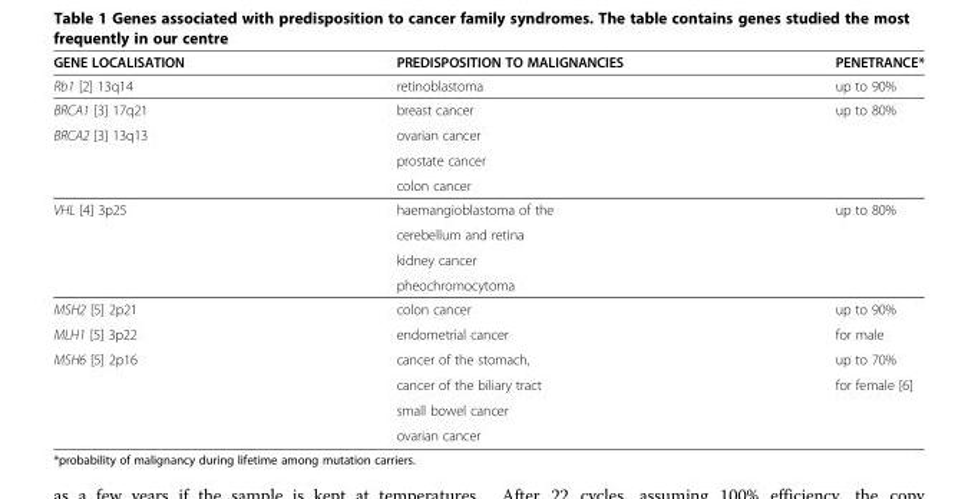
<table><thead><tr><td>GENE LOCALISATION</td><td>PREDISPOSITION TO MALIGNANCIES</td><td>PENETRANCE*</td></tr></thead><tbody><tr><td>Rb1 [2] 13q14</td><td>retinoblastoma</td><td>up to 90%</td></tr><tr><td>BRCA1 [3] 17q21</td><td>breast cancer</td><td>up to 80%</td></tr><tr><td rowspan="3">BRCA2 [3] 13q13</td><td>ovarian cancer</td><td></td></tr><tr><td>prostate cancer</td><td></td></tr><tr><td>colon cancer</td><td></td></tr><tr><td rowspan="4">VHL [4] 3p25</td><td>haemangioblastoma of the</td><td>up to 80%</td></tr><tr><td>cerebellum and retina</td><td></td></tr><tr><td>kidney cancer</td><td></td></tr><tr><td>pheochromocytoma</td><td></td></tr><tr><td>MSH2 [5] 2p21</td><td>colon cancer</td><td>up to 90%</td></tr><tr><td>MLH1 [5] 3p22</td><td>endometrial cancer</td><td>for male</td></tr><tr><td rowspan="4">MSH6 [5] 2p16</td><td>cancer of the stomach,</td><td>up to 70%</td></tr><tr><td>cancer of the biliary tract</td><td>for female [6]</td></tr><tr><td>small bowel cancer</td><td></td></tr><tr><td>ovarian cancer</td><td></td></tr></tbody></table>